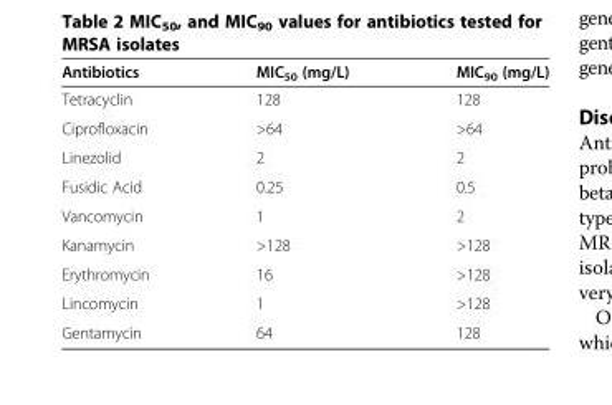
<table><thead><tr><td>Antibiotics</td><td>MIC<sub>50</sub> (mg/L)</td><td>MIC<sub>90</sub> (mg/L)</td></tr></thead><tbody><tr><td>Tetracyclin</td><td>128</td><td>128</td></tr><tr><td>Ciprofloxacin</td><td>&gt;64</td><td>&gt;64</td></tr><tr><td>Linezolid</td><td>2</td><td>2</td></tr><tr><td>Fusidic Acid</td><td>0.25</td><td>0.5</td></tr><tr><td>Vancomycin</td><td>1</td><td>2</td></tr><tr><td>Kanamycin</td><td>&gt;128</td><td>&gt;128</td></tr><tr><td>Erythromycin</td><td>16</td><td>&gt;128</td></tr><tr><td>Lincomycin</td><td>1</td><td>&gt;128</td></tr><tr><td>Gentamycin</td><td>64</td><td>128</td></tr></tbody></table>